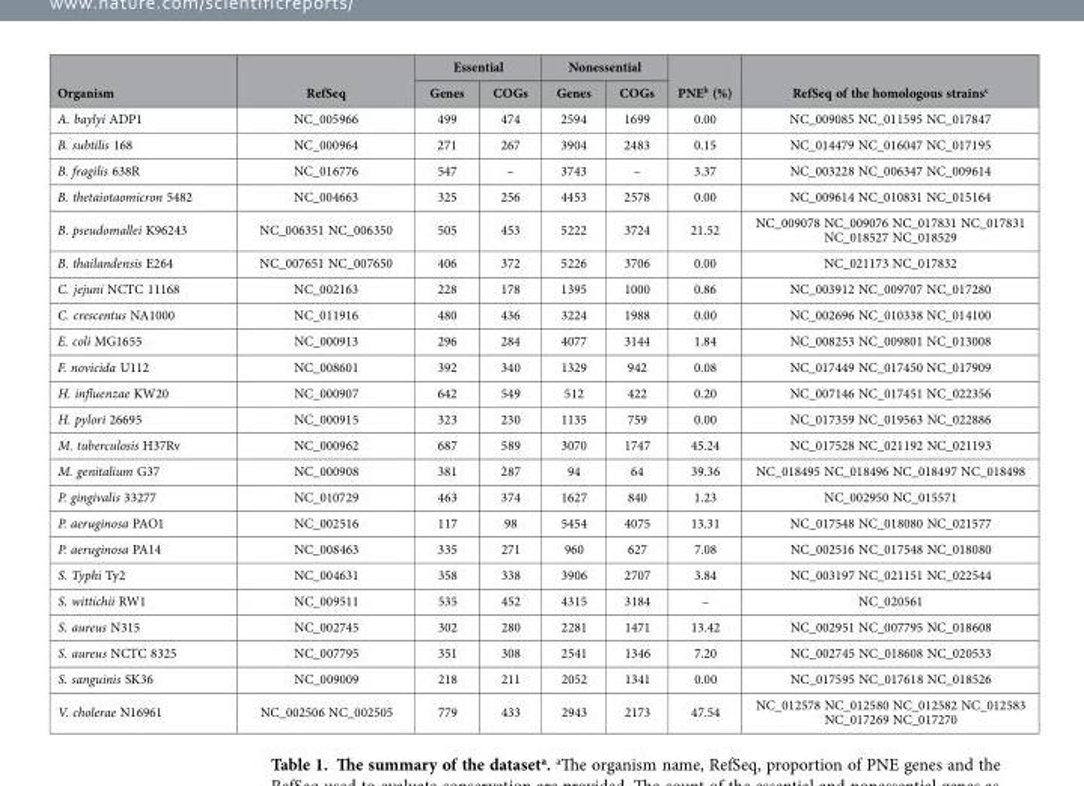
<table><thead><tr><td rowspan="2">Organism</td><td rowspan="2">RefSeq</td><td colspan="2">Essential</td><td colspan="2">Nonessential</td><td rowspan="2">PNE<sup>b</sup> (%)</td><td rowspan="2">RefSeq of the homologous strains<sup>c</sup></td></tr><tr><td>Genes</td><td>COGs</td><td>Genes</td><td>COGs</td></tr></thead><tbody><tr><td>A. baylyi ADP1</td><td>NC_005966</td><td>499</td><td>474</td><td>2594</td><td>1699</td><td>0.00</td><td>NC_009085 NC_011595 NC_017847</td></tr><tr><td>B. subtilis 168</td><td>NC_000964</td><td>271</td><td>267</td><td>3904</td><td>2483</td><td>0.15</td><td>NC_014479 NC_016047 NC_017195</td></tr><tr><td>B. fragilis 638R</td><td>NC_016776</td><td>547</td><td>–</td><td>3743</td><td>–</td><td>3.37</td><td>NC_003228 NC_006347 NC_009614</td></tr><tr><td>B. thetaiotaomicron 5482</td><td>NC_004663</td><td>325</td><td>256</td><td>4453</td><td>2578</td><td>0.00</td><td>NC_009614 NC_010831 NC_015164</td></tr><tr><td>B. pseudomallei K96243</td><td>NC_006351 NC_006350</td><td>505</td><td>453</td><td>5222</td><td>3724</td><td>21.52</td><td>NC_009078 NC_009076 NC_017831 NC_017831 NC_018527 NC_018529</td></tr><tr><td>B. thailandensis E264</td><td>NC_007651 NC_007650</td><td>406</td><td>372</td><td>5226</td><td>3706</td><td>0.00</td><td>NC_021173 NC_017832</td></tr><tr><td>C. jejuni NCTC 11168</td><td>NC_002163</td><td>228</td><td>178</td><td>1395</td><td>1000</td><td>0.86</td><td>NC_003912 NC_009707 NC_017280</td></tr><tr><td>C. crescentus NA1000</td><td>NC_011916</td><td>480</td><td>436</td><td>3224</td><td>1988</td><td>0.00</td><td>NC_002696 NC_010338 NC_014100</td></tr><tr><td>E. coli MG1655</td><td>NC_000913</td><td>296</td><td>284</td><td>4077</td><td>3144</td><td>1.84</td><td>NC_008253 NC_009801 NC_013008</td></tr><tr><td>F. novicida U112</td><td>NC_008601</td><td>392</td><td>340</td><td>1329</td><td>942</td><td>0.08</td><td>NC_017449 NC_017450 NC_017909</td></tr><tr><td>H. influenzae KW20</td><td>NC_000907</td><td>642</td><td>549</td><td>512</td><td>422</td><td>0.20</td><td>NC_007146 NC_017451 NC_022356</td></tr><tr><td>H. pylori 26695</td><td>NC_000915</td><td>323</td><td>230</td><td>1135</td><td>759</td><td>0.00</td><td>NC_017359 NC_019563 NC_022886</td></tr><tr><td>M. tuberculosis H37Rv</td><td>NC_000962</td><td>687</td><td>589</td><td>3070</td><td>1747</td><td>45.24</td><td>NC_017528 NC_021192 NC_021193</td></tr><tr><td>M. genitalium G37</td><td>NC_000908</td><td>381</td><td>287</td><td>94</td><td>64</td><td>39.36</td><td>NC_018495 NC_018496 NC_018497 NC_018498</td></tr><tr><td>P. gingivalis 33277</td><td>NC_010729</td><td>463</td><td>374</td><td>1627</td><td>840</td><td>1.23</td><td>NC_002950 NC_015571</td></tr><tr><td>P. aeruginosa PAO1</td><td>NC_002516</td><td>117</td><td>98</td><td>5454</td><td>4075</td><td>13.31</td><td>NC_017548 NC_018080 NC_021577</td></tr><tr><td>P. aeruginosa PA14</td><td>NC_008463</td><td>335</td><td>271</td><td>960</td><td>627</td><td>7.08</td><td>NC_002516 NC_017548 NC_018080</td></tr><tr><td>S. Typhi Ty2</td><td>NC_004631</td><td>358</td><td>338</td><td>3906</td><td>2707</td><td>3.84</td><td>NC_003197 NC_021151 NC_022544</td></tr><tr><td>S. wittichii RW1</td><td>NC_009511</td><td>535</td><td>452</td><td>4315</td><td>3184</td><td>–</td><td>NC_020561</td></tr><tr><td>S. aureus N315</td><td>NC_002745</td><td>302</td><td>280</td><td>2281</td><td>1471</td><td>13.42</td><td>NC_002951 NC_007795 NC_018608</td></tr><tr><td>S. aureus NCTC 8325</td><td>NC_007795</td><td>351</td><td>308</td><td>2541</td><td>1346</td><td>7.20</td><td>NC_002745 NC_018608 NC_020533</td></tr><tr><td>S. sanguinis SK36</td><td>NC_009009</td><td>218</td><td>211</td><td>2052</td><td>1341</td><td>0.00</td><td>NC_017595 NC_017618 NC_018526</td></tr><tr><td>V. cholerae N16961</td><td>NC_002506 NC_002505</td><td>779</td><td>433</td><td>2943</td><td>2173</td><td>47.54</td><td>NC_012578 NC_012580 NC_012582 NC_012583 NC_017269 NC_017270</td></tr></tbody></table>